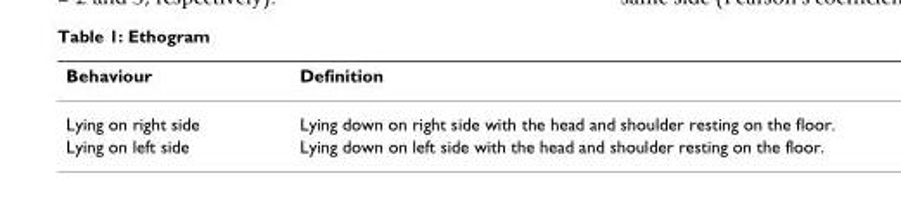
<table><thead><tr><td>Behaviour</td><td>Definition</td></tr></thead><tbody><tr><td>Lying on right side</td><td>Lying down on right side with the head and shoulder resting on the floor.</td></tr><tr><td>Lying on left side</td><td>Lying down on left side with the head and shoulder resting on the floor.</td></tr></tbody></table>